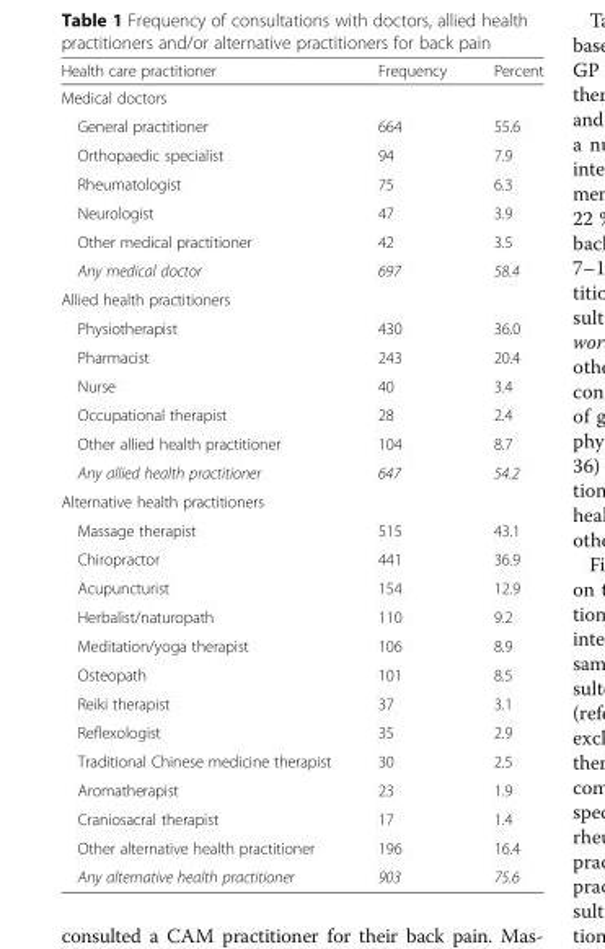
<table><thead><tr><td>Health care practitioner</td><td>Frequency</td><td>Percent</td></tr></thead><tbody><tr><td colspan="3">Medical doctors</td></tr><tr><td>General practitioner</td><td>664</td><td>55.6</td></tr><tr><td>Orthopaedic specialist</td><td>94</td><td>7.9</td></tr><tr><td>Rheumatologist</td><td>75</td><td>6.3</td></tr><tr><td>Neurologist</td><td>47</td><td>3.9</td></tr><tr><td>Other medical practitioner</td><td>42</td><td>3.5</td></tr><tr><td>Any medical doctor</td><td>697</td><td>58.4</td></tr><tr><td colspan="3">Allied health practitioners</td></tr><tr><td>Physiotherapist</td><td>430</td><td>36.0</td></tr><tr><td>Pharmacist</td><td>243</td><td>20.4</td></tr><tr><td>Nurse</td><td>40</td><td>3.4</td></tr><tr><td>Occupational therapist</td><td>28</td><td>2.4</td></tr><tr><td>Other allied health practitioner</td><td>104</td><td>8.7</td></tr><tr><td>Any allied health practitioner</td><td>647</td><td>54.2</td></tr><tr><td colspan="3">Alternative health practitioners</td></tr><tr><td>Massage therapist</td><td>515</td><td>43.1</td></tr><tr><td>Chiropractor</td><td>441</td><td>36.9</td></tr><tr><td>Acupuncturist</td><td>154</td><td>12.9</td></tr><tr><td>Herbalist/naturopath</td><td>110</td><td>9.2</td></tr><tr><td>Meditation/yoga therapist</td><td>106</td><td>8.9</td></tr><tr><td>Osteopath</td><td>101</td><td>8.5</td></tr><tr><td>Reiki therapist</td><td>37</td><td>3.1</td></tr><tr><td>Reflexologist</td><td>35</td><td>2.9</td></tr><tr><td>Traditional Chinese medicine therapist</td><td>30</td><td>2.5</td></tr><tr><td>Aromatherapist</td><td>23</td><td>1.9</td></tr><tr><td>Craniosacral therapist</td><td>17</td><td>1.4</td></tr><tr><td>Other alternative health practitioner</td><td>196</td><td>16.4</td></tr><tr><td>Any alternative health practitioner</td><td>903</td><td>75.6</td></tr></tbody></table>